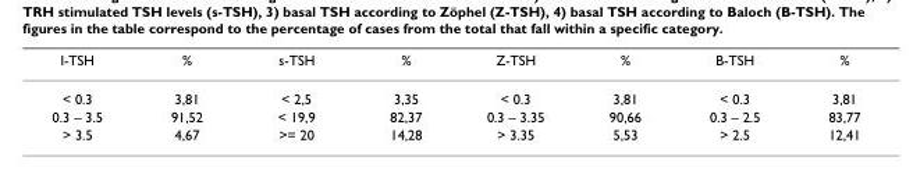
<table><thead><tr><td>I-TSH</td><td>%</td><td>s-TSH</td><td>%</td><td>Z-TSH</td><td>%</td><td>B-TSH</td><td>%</td></tr></thead><tbody><tr><td>&lt; 0.3</td><td>3,81</td><td>&lt; 2,5</td><td>3,35</td><td>&lt; 0.3</td><td>3,81</td><td>&lt; 0.3</td><td>3,81</td></tr><tr><td>0.3 – 3.5</td><td>91,52</td><td>&lt; 19,9</td><td>82,37</td><td>0.3 – 3.35</td><td>90,66</td><td>0.3 – 2.5</td><td>83,77</td></tr><tr><td>&gt; 3.5</td><td>4,67</td><td>&gt;= 20</td><td>14,28</td><td>&gt; 3.35</td><td>5,53</td><td>&gt; 2.5</td><td>12,41</td></tr></tbody></table>